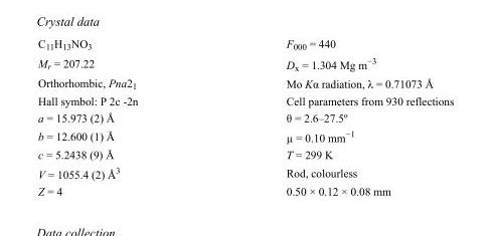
<table><tbody><tr><td>C<sub>11</sub>H<sub>13</sub>NO<sub>3</sub></td><td>F000 = 440</td></tr><tr><td>M<sub>r</sub> = 207.22</td><td>D<sub>x</sub> = 1.304 Mg m<sup>−3</sup></td></tr><tr><td>Orthorhombic, Pna2<sub>1</sub></td><td>Mo Kα radiation, λ = 0.71073 Å</td></tr><tr><td>Hall symbol: P 2c -2n</td><td>Cell parameters from 930 reflections</td></tr><tr><td>a = 15.973 (2) Å</td><td>θ = 2.6–27.5º</td></tr><tr><td>b = 12.600 (1) Å</td><td>µ = 0.10 mm<sup>−1</sup></td></tr><tr><td>c = 5.2438 (9) Å</td><td>T = 299 K</td></tr><tr><td>V = 1055.4 (2) Å<sup>3</sup></td><td>Rod, colourless</td></tr><tr><td>Z = 4</td><td>0.50 × 0.12 × 0.08 mm</td></tr></tbody></table>